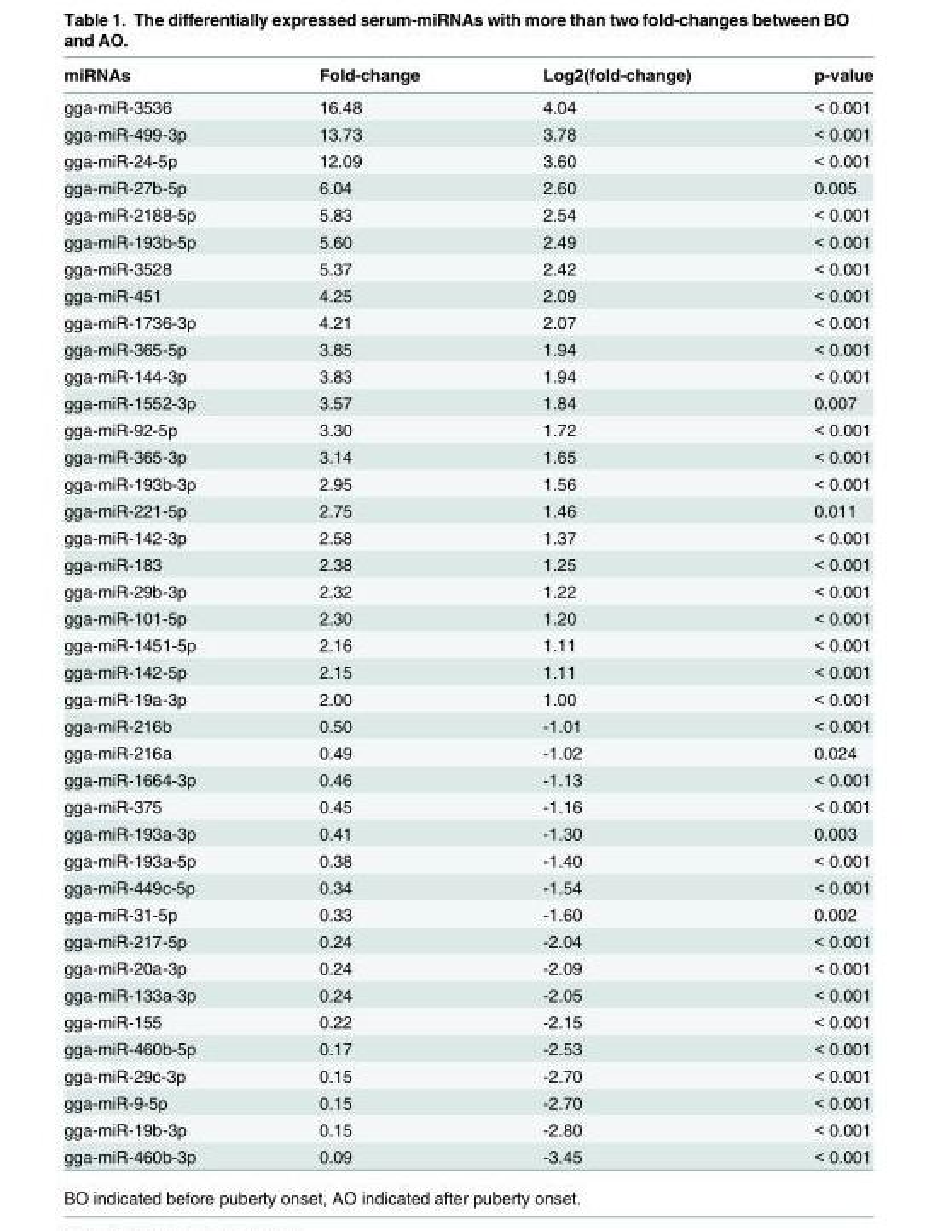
<table><thead><tr><td>miRNAs</td><td>Fold-change</td><td>Log2(fold-change)</td><td>p-value</td></tr></thead><tbody><tr><td>gga-miR-3536</td><td>16.48</td><td>4.04</td><td>&lt; 0.001</td></tr><tr><td>gga-miR-499-3p</td><td>13.73</td><td>3.78</td><td>&lt; 0.001</td></tr><tr><td>gga-miR-24-5p</td><td>12.09</td><td>3.60</td><td>&lt; 0.001</td></tr><tr><td>gga-miR-27b-5p</td><td>6.04</td><td>2.60</td><td>0.005</td></tr><tr><td>gga-miR-2188-5p</td><td>5.83</td><td>2.54</td><td>&lt; 0.001</td></tr><tr><td>gga-miR-193b-5p</td><td>5.60</td><td>2.49</td><td>&lt; 0.001</td></tr><tr><td>gga-miR-3528</td><td>5.37</td><td>2.42</td><td>&lt; 0.001</td></tr><tr><td>gga-miR-451</td><td>4.25</td><td>2.09</td><td>&lt; 0.001</td></tr><tr><td>gga-miR-1736-3p</td><td>4.21</td><td>2.07</td><td>&lt; 0.001</td></tr><tr><td>gga-miR-365-5p</td><td>3.85</td><td>1.94</td><td>&lt; 0.001</td></tr><tr><td>gga-miR-144-3p</td><td>3.83</td><td>1.94</td><td>&lt; 0.001</td></tr><tr><td>gga-miR-1552-3p</td><td>3.57</td><td>1.84</td><td>0.007</td></tr><tr><td>gga-miR-92-5p</td><td>3.30</td><td>1.72</td><td>&lt; 0.001</td></tr><tr><td>gga-miR-365-3p</td><td>3.14</td><td>1.65</td><td>&lt; 0.001</td></tr><tr><td>gga-miR-193b-3p</td><td>2.95</td><td>1.56</td><td>&lt; 0.001</td></tr><tr><td>gga-miR-221-5p</td><td>2.75</td><td>1.46</td><td>0.011</td></tr><tr><td>gga-miR-142-3p</td><td>2.58</td><td>1.37</td><td>&lt; 0.001</td></tr><tr><td>gga-miR-183</td><td>2.38</td><td>1.25</td><td>&lt; 0.001</td></tr><tr><td>gga-miR-29b-3p</td><td>2.32</td><td>1.22</td><td>&lt; 0.001</td></tr><tr><td>gga-miR-101-5p</td><td>2.30</td><td>1.20</td><td>&lt; 0.001</td></tr><tr><td>gga-miR-1451-5p</td><td>2.16</td><td>1.11</td><td>&lt; 0.001</td></tr><tr><td>gga-miR-142-5p</td><td>2.15</td><td>1.11</td><td>&lt; 0.001</td></tr><tr><td>gga-miR-19a-3p</td><td>2.00</td><td>1.00</td><td>&lt; 0.001</td></tr><tr><td>gga-miR-216b</td><td>0.50</td><td>-1.01</td><td>&lt; 0.001</td></tr><tr><td>gga-miR-216a</td><td>0.49</td><td>-1.02</td><td>0.024</td></tr><tr><td>gga-miR-1664-3p</td><td>0.46</td><td>-1.13</td><td>&lt; 0.001</td></tr><tr><td>gga-miR-375</td><td>0.45</td><td>-1.16</td><td>&lt; 0.001</td></tr><tr><td>gga-miR-193a-3p</td><td>0.41</td><td>-1.30</td><td>0.003</td></tr><tr><td>gga-miR-193a-5p</td><td>0.38</td><td>-1.40</td><td>&lt; 0.001</td></tr><tr><td>gga-miR-449c-5p</td><td>0.34</td><td>-1.54</td><td>&lt; 0.001</td></tr><tr><td>gga-miR-31-5p</td><td>0.33</td><td>-1.60</td><td>0.002</td></tr><tr><td>gga-miR-217-5p</td><td>0.24</td><td>-2.04</td><td>&lt; 0.001</td></tr><tr><td>gga-miR-20a-3p</td><td>0.24</td><td>-2.09</td><td>&lt; 0.001</td></tr><tr><td>gga-miR-133a-3p</td><td>0.24</td><td>-2.05</td><td>&lt; 0.001</td></tr><tr><td>gga-miR-155</td><td>0.22</td><td>-2.15</td><td>&lt; 0.001</td></tr><tr><td>gga-miR-460b-5p</td><td>0.17</td><td>-2.53</td><td>&lt; 0.001</td></tr><tr><td>gga-miR-29c-3p</td><td>0.15</td><td>-2.70</td><td>&lt; 0.001</td></tr><tr><td>gga-miR-9-5p</td><td>0.15</td><td>-2.70</td><td>&lt; 0.001</td></tr><tr><td>gga-miR-19b-3p</td><td>0.15</td><td>-2.80</td><td>&lt; 0.001</td></tr><tr><td>gga-miR-460b-3p</td><td>0.09</td><td>-3.45</td><td>&lt; 0.001</td></tr></tbody></table>